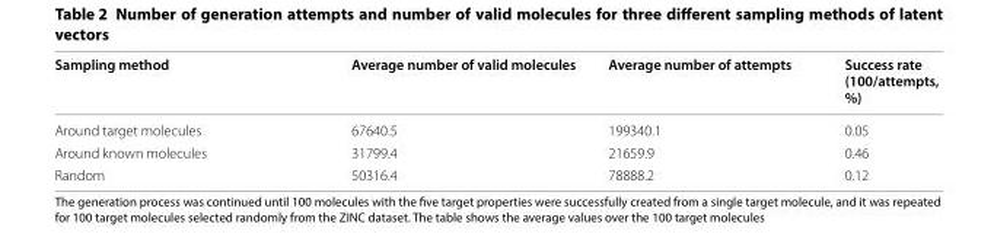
<table><thead><tr><td>Sampling method</td><td>Average number of valid molecules</td><td>Average number of attempts</td><td>Success rate (100/attempts, %)</td></tr></thead><tbody><tr><td>Around target molecules</td><td>67640.5</td><td>199340.1</td><td>0.05</td></tr><tr><td>Around known molecules</td><td>31799.4</td><td>21659.9</td><td>0.46</td></tr><tr><td>Random</td><td>50316.4</td><td>78888.2</td><td>0.12</td></tr></tbody></table>